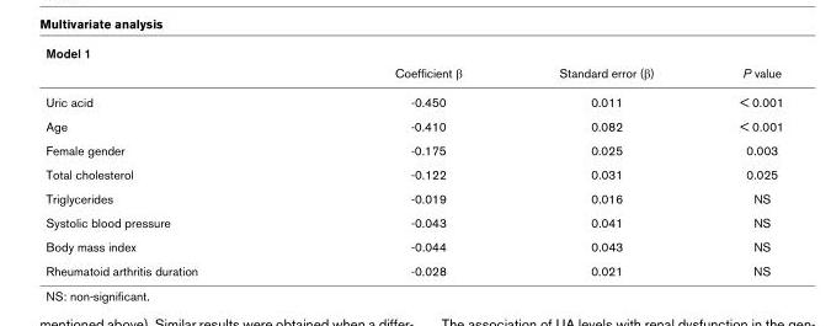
<table><thead><tr><td rowspan="2">Model 1</td><td rowspan="2">Coefficient β</td><td rowspan="2">Standard error (β)</td><td rowspan="2">P value</td></tr><tr></tr></thead><tbody><tr><td>Uric acid</td><td>-0.450</td><td>0.011</td><td>&lt; 0.001</td></tr><tr><td>Age</td><td>-0.410</td><td>0.082</td><td>&lt; 0.001</td></tr><tr><td>Female gender</td><td>-0.175</td><td>0.025</td><td>0.003</td></tr><tr><td>Total cholesterol</td><td>-0.122</td><td>0.031</td><td>0.025</td></tr><tr><td>Triglycerides</td><td>-0.019</td><td>0.016</td><td>NS</td></tr><tr><td>Systolic blood pressure</td><td>-0.043</td><td>0.041</td><td>NS</td></tr><tr><td>Body mass index</td><td>-0.044</td><td>0.043</td><td>NS</td></tr><tr><td>Rheumatoid arthritis duration</td><td>-0.028</td><td>0.021</td><td>NS</td></tr></tbody></table>